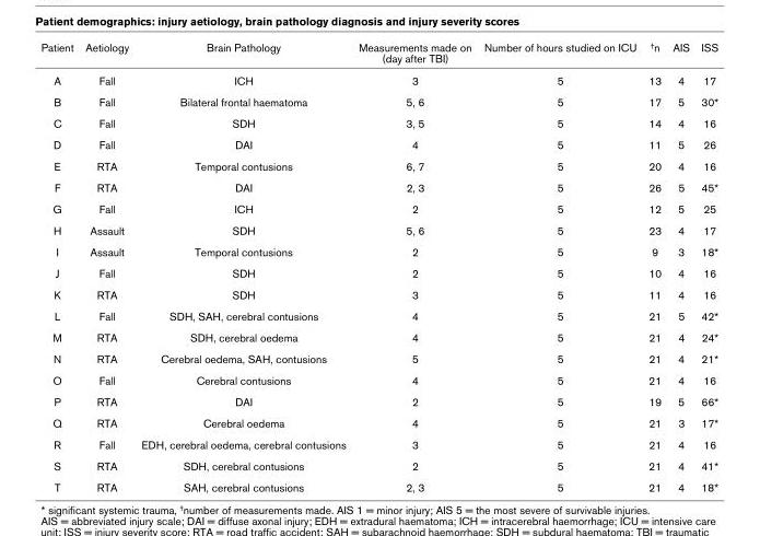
<table><thead><tr><td>Patient</td><td>Aetiology</td><td>Brain Pathology</td><td>Measurements made on (day after TBI)</td><td>Number of hours studied on ICU</td><td><sup>†</sup>n</td><td>AIS</td><td>ISS</td></tr></thead><tbody><tr><td>A</td><td>Fall</td><td>ICH</td><td>3</td><td>5</td><td>13</td><td>4</td><td>17</td></tr><tr><td>B</td><td>Fall</td><td>Bilateral frontal haematoma</td><td>5, 6</td><td>5</td><td>17</td><td>5</td><td>30*</td></tr><tr><td>C</td><td>Fall</td><td>SDH</td><td>3, 5</td><td>5</td><td>14</td><td>4</td><td>16</td></tr><tr><td>D</td><td>Fall</td><td>DAI</td><td>4</td><td>5</td><td>11</td><td>5</td><td>26</td></tr><tr><td>E</td><td>RTA</td><td>Temporal contusions</td><td>6, 7</td><td>5</td><td>20</td><td>4</td><td>16</td></tr><tr><td>F</td><td>RTA</td><td>DAI</td><td>2, 3</td><td>5</td><td>26</td><td>5</td><td>45*</td></tr><tr><td>G</td><td>Fall</td><td>ICH</td><td>2</td><td>5</td><td>12</td><td>5</td><td>25</td></tr><tr><td>H</td><td>Assault</td><td>SDH</td><td>5, 6</td><td>5</td><td>23</td><td>4</td><td>17</td></tr><tr><td>I</td><td>Assault</td><td>Temporal contusions</td><td>2</td><td>5</td><td>9</td><td>3</td><td>18*</td></tr><tr><td>J</td><td>Fall</td><td>SDH</td><td>2</td><td>5</td><td>10</td><td>4</td><td>16</td></tr><tr><td>K</td><td>RTA</td><td>SDH</td><td>3</td><td>5</td><td>11</td><td>4</td><td>16</td></tr><tr><td>L</td><td>Fall</td><td>SDH, SAH, cerebral contusions</td><td>4</td><td>5</td><td>21</td><td>5</td><td>42*</td></tr><tr><td>M</td><td>RTA</td><td>SDH, cerebral oedema</td><td>4</td><td>5</td><td>21</td><td>4</td><td>24*</td></tr><tr><td>N</td><td>RTA</td><td>Cerebral oedema, SAH, contusions</td><td>5</td><td>5</td><td>21</td><td>4</td><td>21*</td></tr><tr><td>O</td><td>Fall</td><td>Cerebral contusions</td><td>4</td><td>5</td><td>21</td><td>4</td><td>16</td></tr><tr><td>P</td><td>RTA</td><td>DAI</td><td>2</td><td>5</td><td>19</td><td>5</td><td>66*</td></tr><tr><td>Q</td><td>RTA</td><td>Cerebral oedema</td><td>4</td><td>5</td><td>21</td><td>3</td><td>17*</td></tr><tr><td>R</td><td>Fall</td><td>EDH, cerebral oedema, cerebral contusions</td><td>3</td><td>5</td><td>21</td><td>4</td><td>16</td></tr><tr><td>S</td><td>RTA</td><td>SDH, cerebral contusions</td><td>2</td><td>5</td><td>21</td><td>4</td><td>41*</td></tr><tr><td>T</td><td>RTA</td><td>SAH, cerebral contusions</td><td>2, 3</td><td>5</td><td>21</td><td>4</td><td>18*</td></tr></tbody></table>